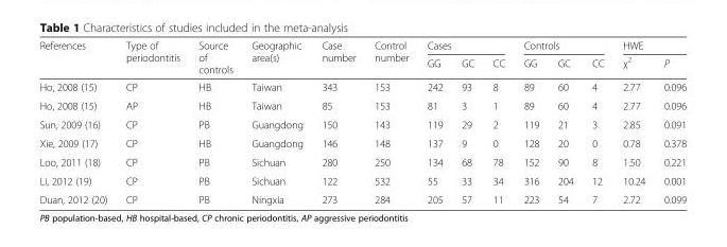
<table><thead><tr><td rowspan="2">References</td><td rowspan="2">Type of periodontitis</td><td rowspan="2">Source of controls</td><td rowspan="2">Geographic area(s)</td><td rowspan="2">Case number</td><td rowspan="2">Control number</td><td colspan="3">Cases</td><td colspan="3">Controls</td><td colspan="2">HWE</td></tr><tr><td>GG</td><td>GC</td><td>CC</td><td>GG</td><td>GC</td><td>CC</td><td>χ<sup>2</sup></td><td>P</td></tr></thead><tbody><tr><td>Ho, 2008 (15)</td><td>CP</td><td>HB</td><td>Taiwan</td><td>343</td><td>153</td><td>242</td><td>93</td><td>8</td><td>89</td><td>60</td><td>4</td><td>2.77</td><td>0.096</td></tr><tr><td>Ho, 2008 (15)</td><td>AP</td><td>HB</td><td>Taiwan</td><td>85</td><td>153</td><td>81</td><td>3</td><td>1</td><td>89</td><td>60</td><td>4</td><td>2.77</td><td>0.096</td></tr><tr><td>Sun, 2009 (16)</td><td>CP</td><td>PB</td><td>Guangdong</td><td>150</td><td>143</td><td>119</td><td>29</td><td>2</td><td>119</td><td>21</td><td>3</td><td>2.85</td><td>0.091</td></tr><tr><td>Xie, 2009 (17)</td><td>CP</td><td>HB</td><td>Guangdong</td><td>146</td><td>148</td><td>137</td><td>9</td><td>0</td><td>128</td><td>20</td><td>0</td><td>0.78</td><td>0.378</td></tr><tr><td>Loo, 2011 (18)</td><td>CP</td><td>PB</td><td>Sichuan</td><td>280</td><td>250</td><td>134</td><td>68</td><td>78</td><td>152</td><td>90</td><td>8</td><td>1.50</td><td>0.221</td></tr><tr><td>Li, 2012 (19)</td><td>CP</td><td>PB</td><td>Sichuan</td><td>122</td><td>532</td><td>55</td><td>33</td><td>34</td><td>316</td><td>204</td><td>12</td><td>10.24</td><td>0.001</td></tr><tr><td>Duan, 2012 (20)</td><td>CP</td><td>PB</td><td>Ningxia</td><td>273</td><td>284</td><td>205</td><td>57</td><td>11</td><td>223</td><td>54</td><td>7</td><td>2.72</td><td>0.099</td></tr></tbody></table>